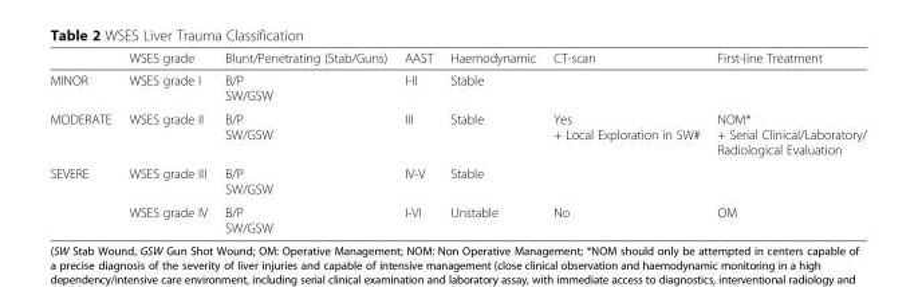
<table><thead><tr><td></td><td>WSES grade</td><td>Blunt/Penetrating (Stab/Guns)</td><td>AAST</td><td>Haemodynamic</td><td>CT-scan</td><td>First-line Treatment</td></tr></thead><tbody><tr><td>MINOR</td><td>WSES grade I</td><td>B/P SW/GSW</td><td>I-II</td><td>Stable</td><td></td><td></td></tr><tr><td>MODERATE</td><td>WSES grade II</td><td>B/P SW/GSW</td><td>III</td><td>Stable</td><td>Yes + Local Exploration in SW#</td><td>NOM* + Serial Clinical/Laboratory/ Radiological Evaluation</td></tr><tr><td rowspan="2">SEVERE</td><td>WSES grade III</td><td>B/P SW/GSW</td><td>IV-V</td><td>Stable</td><td></td><td></td></tr><tr><td>WSES grade IV</td><td>B/P SW/GSW</td><td>I-VI</td><td>Unstable</td><td>No</td><td>OM</td></tr></tbody></table>